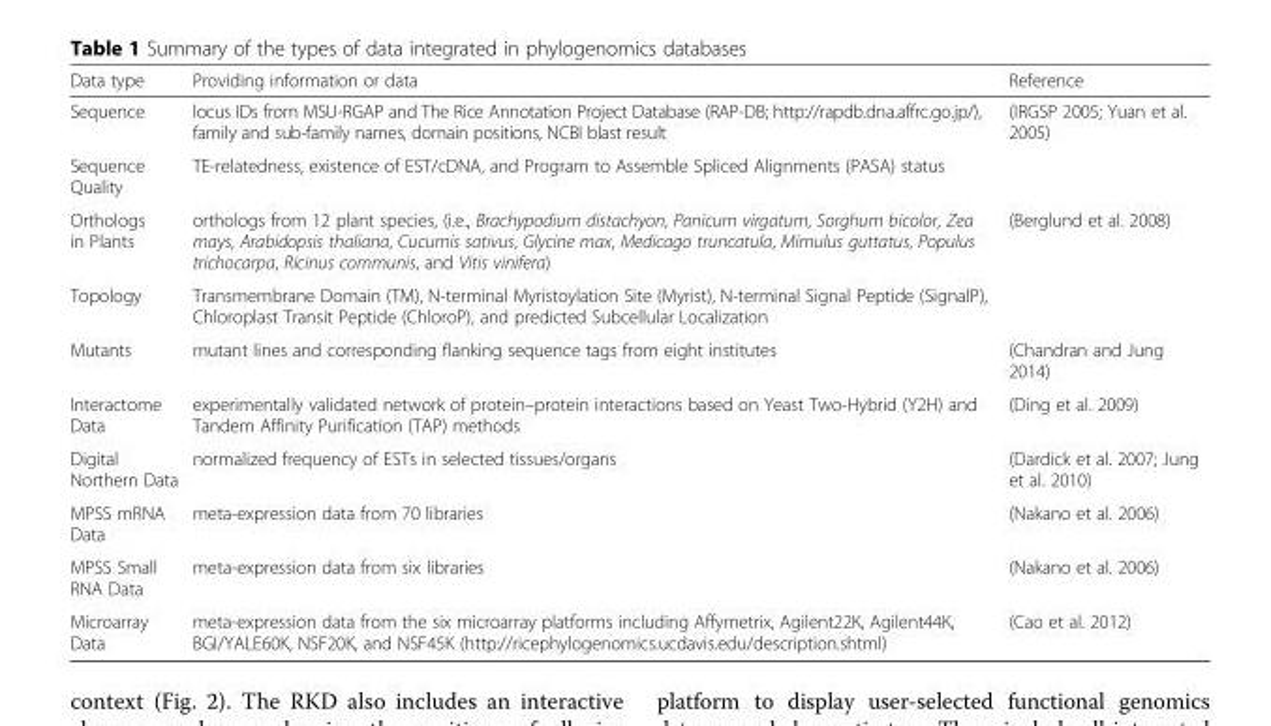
<table><thead><tr><td>Data type</td><td>Providing information or data</td><td>Reference</td></tr></thead><tbody><tr><td>Sequence</td><td>locus IDs from MSU-RGAP and The Rice Annotation Project Database (RAP-DB; http://rapdb.dna.affrc.go.jp/), family and sub-family names, domain positions, NCBI blast result</td><td>(IRGSP 2005; Yuan et al. 2005)</td></tr><tr><td>Sequence Quality</td><td>TE-relatedness, existence of EST/cDNA, and Program to Assemble Spliced Alignments (PASA) status</td><td></td></tr><tr><td>Orthologs in Plants</td><td>orthologs from 12 plant species, (i.e., Brachypodium distachyon, Panicum virgatum, Sorghum bicolor, Zea mays, Arabidopsis thaliana, Cucumis sativus, Glycine max, Medicago truncatula, Mimulus guttatus, Populus trichocarpa, Ricinus communis, and Vitis vinifera)</td><td>(Berglund et al. 2008)</td></tr><tr><td>Topology</td><td>Transmembrane Domain (TM), N-terminal Myristoylation Site (Myrist), N-terminal Signal Peptide (SignalP), Chloroplast Transit Peptide (ChloroP), and predicted Subcellular Localization</td><td></td></tr><tr><td>Mutants</td><td>mutant lines and corresponding flanking sequence tags from eight institutes</td><td>(Chandran and Jung 2014)</td></tr><tr><td>Interactome Data</td><td>experimentally validated network of protein–protein interactions based on Yeast Two-Hybrid (Y2H) and Tandem Affinity Purification (TAP) methods</td><td>(Ding et al. 2009)</td></tr><tr><td>Digital Northern Data</td><td>normalized frequency of ESTs in selected tissues/organs</td><td>(Dardick et al. 2007; Jung et al. 2010)</td></tr><tr><td>MPSS mRNA Data</td><td>meta-expression data from 70 libraries</td><td>(Nakano et al. 2006)</td></tr><tr><td>MPSS Small RNA Data</td><td>meta-expression data from six libraries</td><td>(Nakano et al. 2006)</td></tr><tr><td>Microarray Data</td><td>meta-expression data from the six microarray platforms including Affymetrix, Agilent22K, Agilent44K, BGI/YALE60K, NSF20K, and NSF45K (http://ricephylogenomics.ucdavis.edu/description.shtml)</td><td>(Cao et al. 2012)</td></tr></tbody></table>